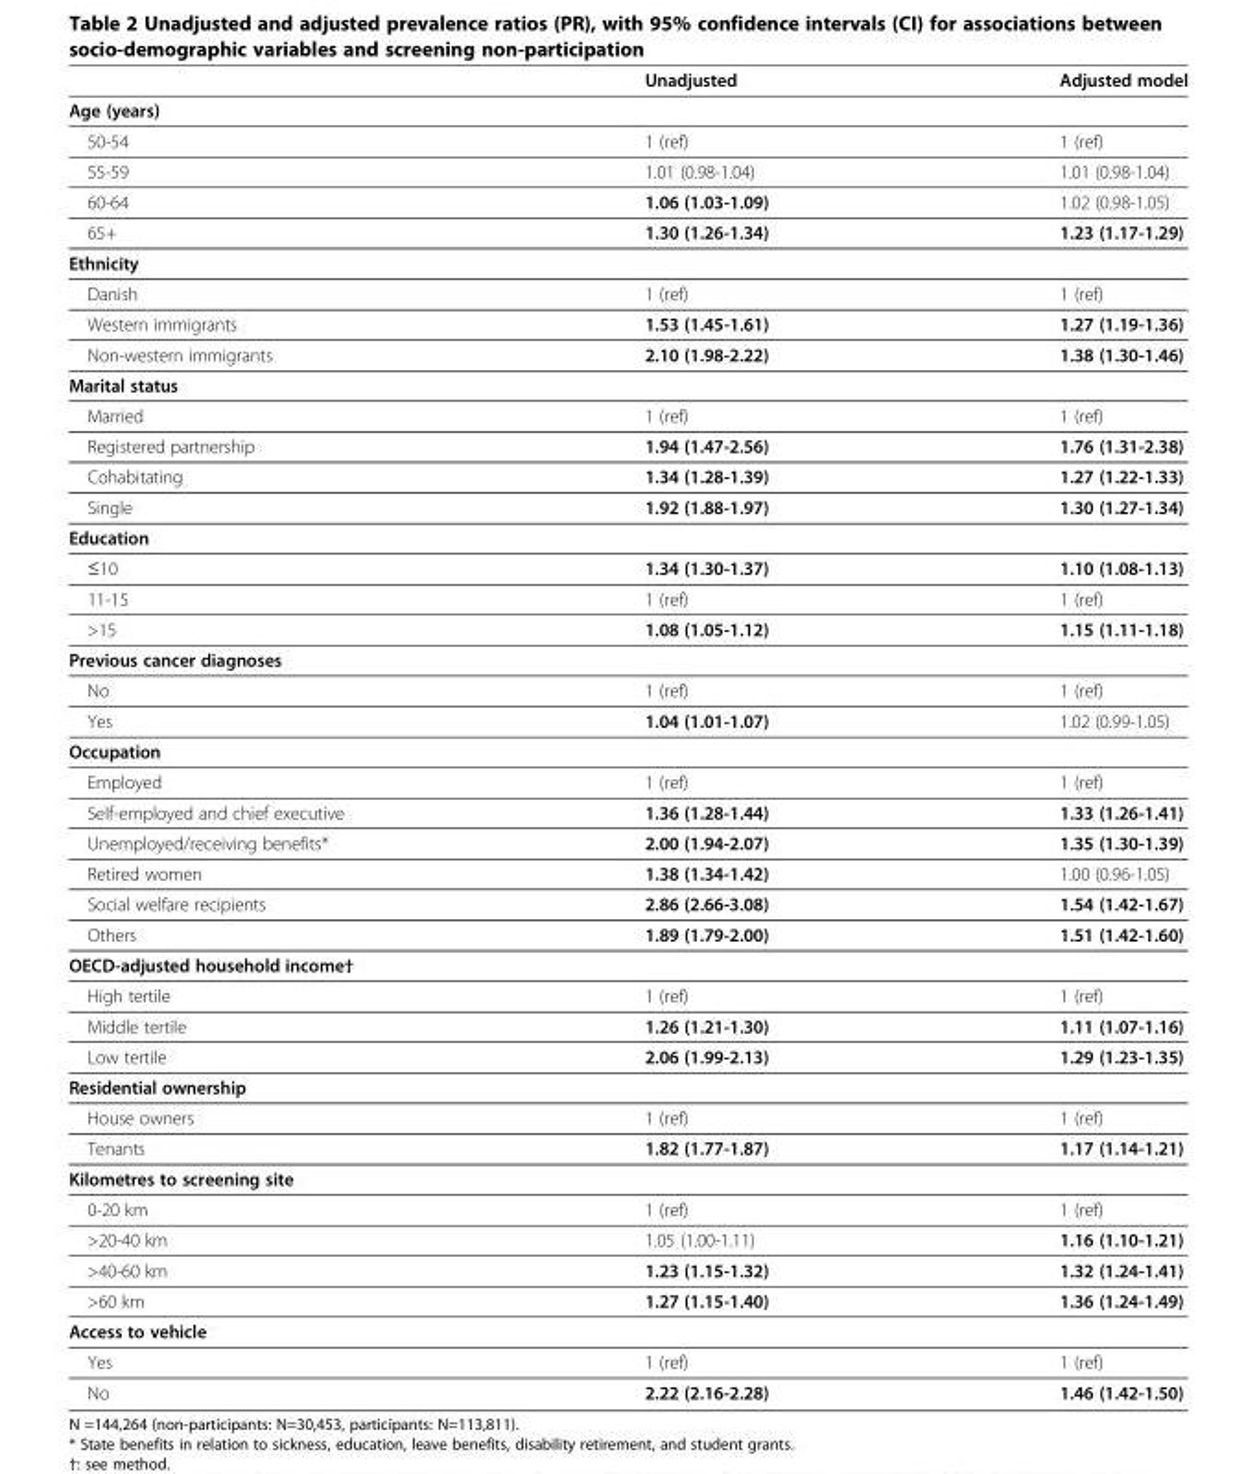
<table><thead><tr><td></td><td>Unadjusted</td><td>Adjusted model</td></tr></thead><tbody><tr><td colspan="3">Age (years)</td></tr><tr><td>50-54</td><td>1 (ref)</td><td>1 (ref)</td></tr><tr><td>55-59</td><td>1.01 (0.98-1.04)</td><td>1.01 (0.98-1.04)</td></tr><tr><td>60-64</td><td>1.06 (1.03-1.09)</td><td>1.02 (0.98-1.05)</td></tr><tr><td>65+</td><td>1.30 (1.26-1.34)</td><td>1.23 (1.17-1.29)</td></tr><tr><td colspan="3">Ethnicity</td></tr><tr><td>Danish</td><td>1 (ref)</td><td>1 (ref)</td></tr><tr><td>Western immigrants</td><td>1.53 (1.45-1.61)</td><td>1.27 (1.19-1.36)</td></tr><tr><td>Non-western immigrants</td><td>2.10 (1.98-2.22)</td><td>1.38 (1.30-1.46)</td></tr><tr><td colspan="3">Marital status</td></tr><tr><td>Married</td><td>1 (ref)</td><td>1 (ref)</td></tr><tr><td>Registered partnership</td><td>1.94 (1.47-2.56)</td><td>1.76 (1.31-2.38)</td></tr><tr><td>Cohabitating</td><td>1.34 (1.28-1.39)</td><td>1.27 (1.22-1.33)</td></tr><tr><td>Single</td><td>1.92 (1.88-1.97)</td><td>1.30 (1.27-1.34)</td></tr><tr><td colspan="3">Education</td></tr><tr><td>≤10</td><td>1.34 (1.30-1.37)</td><td>1.10 (1.08-1.13)</td></tr><tr><td>11-15</td><td>1 (ref)</td><td>1 (ref)</td></tr><tr><td>&gt;15</td><td>1.08 (1.05-1.12)</td><td>1.15 (1.11-1.18)</td></tr><tr><td colspan="3">Previous cancer diagnoses</td></tr><tr><td>No</td><td>1 (ref)</td><td>1 (ref)</td></tr><tr><td>Yes</td><td>1.04 (1.01-1.07)</td><td>1.02 (0.99-1.05)</td></tr><tr><td colspan="3">Occupation</td></tr><tr><td>Employed</td><td>1 (ref)</td><td>1 (ref)</td></tr><tr><td>Self-employed and chief executive</td><td>1.36 (1.28-1.44)</td><td>1.33 (1.26-1.41)</td></tr><tr><td>Unemployed/receiving benefits*</td><td>2.00 (1.94-2.07)</td><td>1.35 (1.30-1.39)</td></tr><tr><td>Retired women</td><td>1.38 (1.34-1.42)</td><td>1.00 (0.96-1.05)</td></tr><tr><td>Social welfare recipients</td><td>2.86 (2.66-3.08)</td><td>1.54 (1.42-1.67)</td></tr><tr><td>Others</td><td>1.89 (1.79-2.00)</td><td>1.51 (1.42-1.60)</td></tr><tr><td colspan="3">OECD-adjusted household income†</td></tr><tr><td>High tertile</td><td>1 (ref)</td><td>1 (ref)</td></tr><tr><td>Middle tertile</td><td>1.26 (1.21-1.30)</td><td>1.11 (1.07-1.16)</td></tr><tr><td>Low tertile</td><td>2.06 (1.99-2.13)</td><td>1.29 (1.23-1.35)</td></tr><tr><td colspan="3">Residential ownership</td></tr><tr><td>House owners</td><td>1 (ref)</td><td>1 (ref)</td></tr><tr><td>Tenants</td><td>1.82 (1.77-1.87)</td><td>1.17 (1.14-1.21)</td></tr><tr><td colspan="3">Kilometres to screening site</td></tr><tr><td>0-20 km</td><td>1 (ref)</td><td>1 (ref)</td></tr><tr><td>&gt;20-40 km</td><td>1.05 (1.00-1.11)</td><td>1.16 (1.10-1.21)</td></tr><tr><td>&gt;40-60 km</td><td>1.23 (1.15-1.32)</td><td>1.32 (1.24-1.41)</td></tr><tr><td>&gt;60 km</td><td>1.27 (1.15-1.40)</td><td>1.36 (1.24-1.49)</td></tr><tr><td colspan="3">Access to vehicle</td></tr><tr><td>Yes</td><td>1 (ref)</td><td>1 (ref)</td></tr><tr><td>No</td><td>2.22 (2.16-2.28)</td><td>1.46 (1.42-1.50)</td></tr></tbody></table>